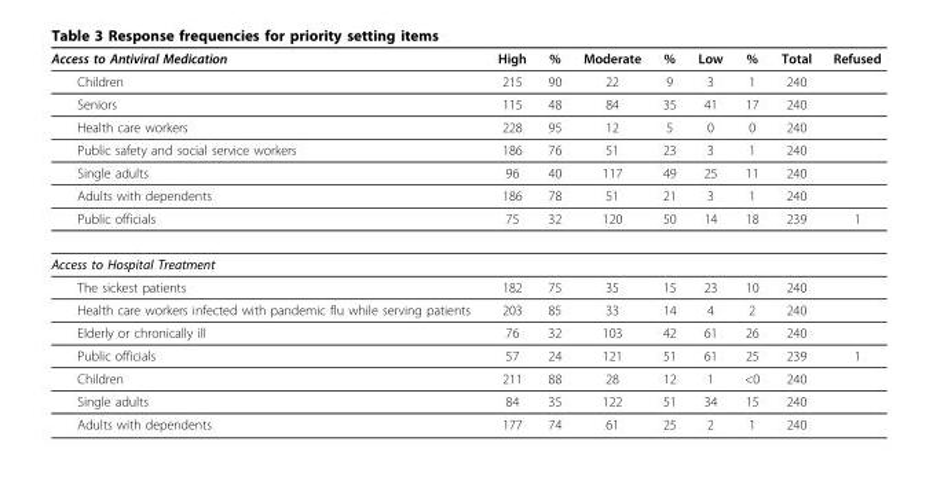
<table><thead><tr><td>Access to Antiviral Medication</td><td>High</td><td>%</td><td>Moderate</td><td>%</td><td>Low</td><td>%</td><td>Total</td><td>Refused</td></tr></thead><tbody><tr><td>Children</td><td>215</td><td>90</td><td>22</td><td>9</td><td>3</td><td>1</td><td>240</td><td></td></tr><tr><td>Seniors</td><td>115</td><td>48</td><td>84</td><td>35</td><td>41</td><td>17</td><td>240</td><td></td></tr><tr><td>Health care workers</td><td>228</td><td>95</td><td>12</td><td>5</td><td>0</td><td>0</td><td>240</td><td></td></tr><tr><td>Public safety and social service workers</td><td>186</td><td>76</td><td>51</td><td>23</td><td>3</td><td>1</td><td>240</td><td></td></tr><tr><td>Single adults</td><td>96</td><td>40</td><td>117</td><td>49</td><td>25</td><td>11</td><td>240</td><td></td></tr><tr><td>Adults with dependents</td><td>186</td><td>78</td><td>51</td><td>21</td><td>3</td><td>1</td><td>240</td><td></td></tr><tr><td>Public officials</td><td>75</td><td>32</td><td>120</td><td>50</td><td>14</td><td>18</td><td>239</td><td>1</td></tr><tr><td colspan="9">Access to Hospital Treatment</td></tr><tr><td>The sickest patients</td><td>182</td><td>75</td><td>35</td><td>15</td><td>23</td><td>10</td><td>240</td><td></td></tr><tr><td>Health care workers infected with pandemic flu while serving patients</td><td>203</td><td>85</td><td>33</td><td>14</td><td>4</td><td>2</td><td>240</td><td></td></tr><tr><td>Elderly or chronically ill</td><td>76</td><td>32</td><td>103</td><td>42</td><td>61</td><td>26</td><td>240</td><td></td></tr><tr><td>Public officials</td><td>57</td><td>24</td><td>121</td><td>51</td><td>61</td><td>25</td><td>239</td><td>1</td></tr><tr><td>Children</td><td>211</td><td>88</td><td>28</td><td>12</td><td>1</td><td>&lt;0</td><td>240</td><td></td></tr><tr><td>Single adults</td><td>84</td><td>35</td><td>122</td><td>51</td><td>34</td><td>15</td><td>240</td><td></td></tr><tr><td>Adults with dependents</td><td>177</td><td>74</td><td>61</td><td>25</td><td>2</td><td>1</td><td>240</td><td></td></tr></tbody></table>